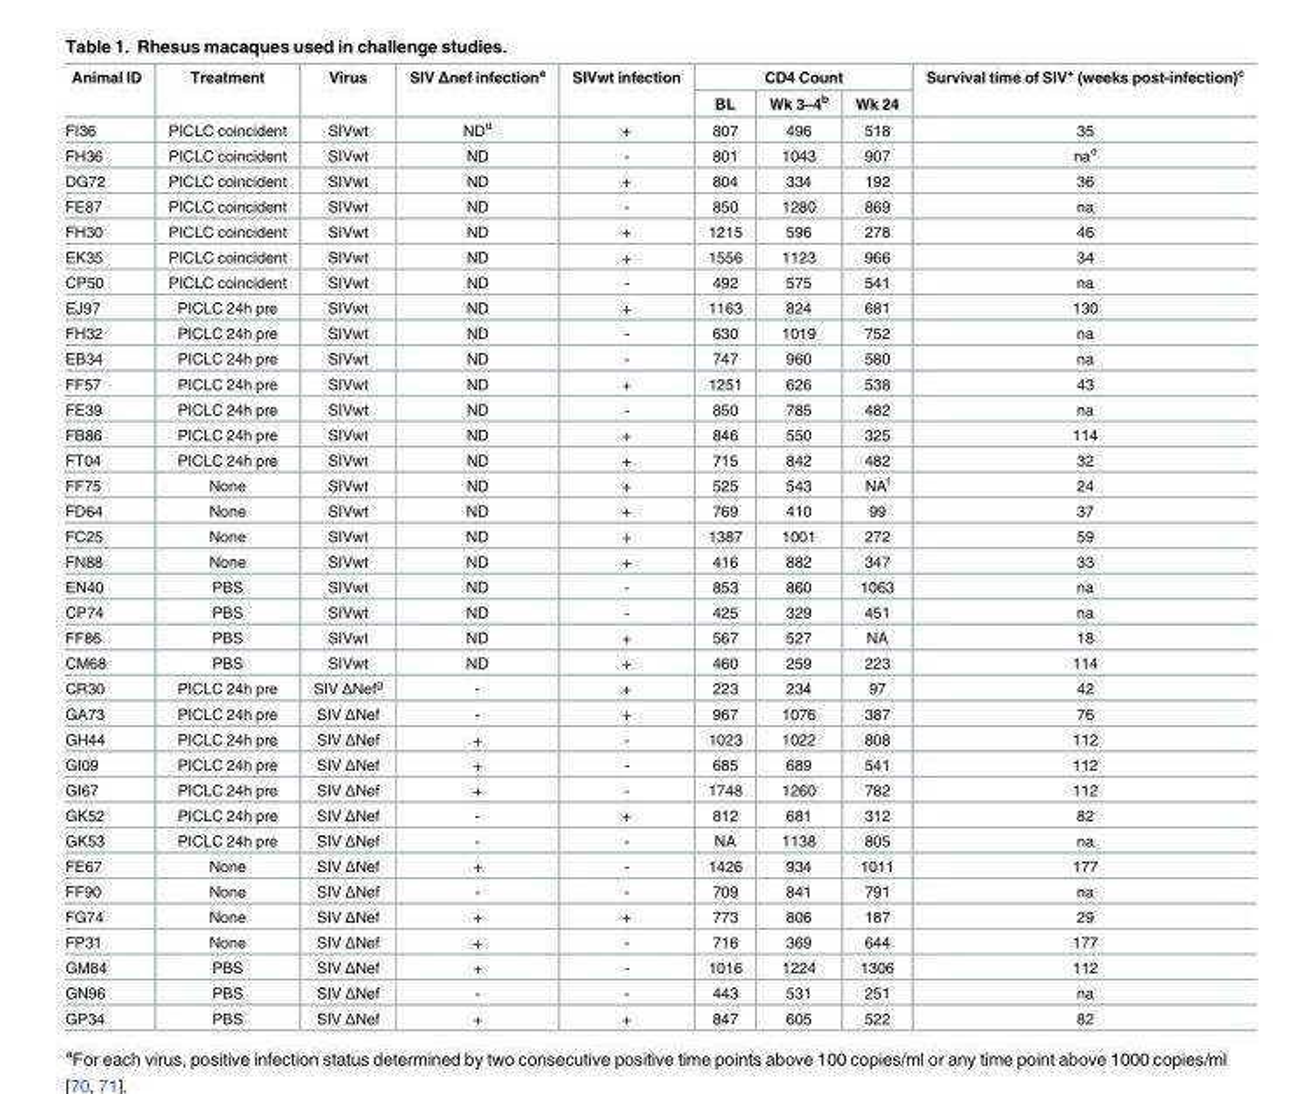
<table><thead><tr><td rowspan="2">Animal ID</td><td rowspan="2">Treatment</td><td rowspan="2">Virus</td><td rowspan="2">SIV Δnef infection<sup>a</sup></td><td rowspan="2">SIVwt infection</td><td colspan="3">CD4 Count</td><td rowspan="2">Survival time of SIV<sup>+</sup> (weeks post-infection)<sup>c</sup></td></tr><tr><td>BL</td><td>Wk 3–4<sup>b</sup></td><td>Wk 24</td></tr></thead><tbody><tr><td>FI36</td><td>PICLC coincident</td><td>SIVwt</td><td>ND<sup>d</sup></td><td>+</td><td>807</td><td>496</td><td>518</td><td>35</td></tr><tr><td>FH36</td><td>PICLC coincident</td><td>SIVwt</td><td>ND</td><td>-</td><td>801</td><td>1043</td><td>907</td><td>na<sup>e</sup></td></tr><tr><td>DG72</td><td>PICLC coincident</td><td>SIVwt</td><td>ND</td><td>+</td><td>804</td><td>334</td><td>192</td><td>36</td></tr><tr><td>FE87</td><td>PICLC coincident</td><td>SIVwt</td><td>ND</td><td>-</td><td>850</td><td>1280</td><td>869</td><td>na</td></tr><tr><td>FH30</td><td>PICLC coincident</td><td>SIVwt</td><td>ND</td><td>+</td><td>1215</td><td>596</td><td>278</td><td>46</td></tr><tr><td>EK35</td><td>PICLC coincident</td><td>SIVwt</td><td>ND</td><td>+</td><td>1556</td><td>1123</td><td>966</td><td>34</td></tr><tr><td>CP50</td><td>PICLC coincident</td><td>SIVwt</td><td>ND</td><td>-</td><td>492</td><td>575</td><td>541</td><td>na</td></tr><tr><td>EJ97</td><td>PICLC 24h pre</td><td>SIVwt</td><td>ND</td><td>+</td><td>1163</td><td>824</td><td>681</td><td>130</td></tr><tr><td>FH32</td><td>PICLC 24h pre</td><td>SIVwt</td><td>ND</td><td>-</td><td>630</td><td>1019</td><td>752</td><td>na</td></tr><tr><td>EB34</td><td>PICLC 24h pre</td><td>SIVwt</td><td>ND</td><td>-</td><td>747</td><td>960</td><td>580</td><td>na</td></tr><tr><td>FF57</td><td>PICLC 24h pre</td><td>SIVwt</td><td>ND</td><td>+</td><td>1251</td><td>626</td><td>538</td><td>43</td></tr><tr><td>FE39</td><td>PICLC 24h pre</td><td>SIVwt</td><td>ND</td><td>-</td><td>850</td><td>785</td><td>482</td><td>na</td></tr><tr><td>FB86</td><td>PICLC 24h pre</td><td>SIVwt</td><td>ND</td><td>+</td><td>846</td><td>550</td><td>325</td><td>114</td></tr><tr><td>FT04</td><td>PICLC 24h pre</td><td>SIVwt</td><td>ND</td><td>+</td><td>715</td><td>842</td><td>482</td><td>32</td></tr><tr><td>FF75</td><td>None</td><td>SIVwt</td><td>ND</td><td>+</td><td>525</td><td>543</td><td>NA<sup>f</sup></td><td>24</td></tr><tr><td>FD64</td><td>None</td><td>SIVwt</td><td>ND</td><td>+</td><td>769</td><td>410</td><td>99</td><td>37</td></tr><tr><td>FC25</td><td>None</td><td>SIVwt</td><td>ND</td><td>+</td><td>1387</td><td>1001</td><td>272</td><td>59</td></tr><tr><td>FN88</td><td>None</td><td>SIVwt</td><td>ND</td><td>+</td><td>416</td><td>882</td><td>347</td><td>33</td></tr><tr><td>EN40</td><td>PBS</td><td>SIVwt</td><td>ND</td><td>-</td><td>853</td><td>860</td><td>1063</td><td>na</td></tr><tr><td>CP74</td><td>PBS</td><td>SIVwt</td><td>ND</td><td>-</td><td>425</td><td>329</td><td>451</td><td>na</td></tr><tr><td>FF86</td><td>PBS</td><td>SIVwt</td><td>ND</td><td>+</td><td>567</td><td>527</td><td>NA</td><td>18</td></tr><tr><td>CM68</td><td>PBS</td><td>SIVwt</td><td>ND</td><td>+</td><td>460</td><td>259</td><td>223</td><td>114</td></tr><tr><td>CR30</td><td>PICLC 24h pre</td><td>SIV ΔNef<sup>g</sup></td><td>-</td><td>+</td><td>223</td><td>234</td><td>97</td><td>42</td></tr><tr><td>GA73</td><td>PICLC 24h pre</td><td>SIV ΔNef</td><td>-</td><td>+</td><td>967</td><td>1076</td><td>387</td><td>76</td></tr><tr><td>GH44</td><td>PICLC 24h pre</td><td>SIV ΔNef</td><td>+</td><td>-</td><td>1023</td><td>1022</td><td>808</td><td>112</td></tr><tr><td>GI09</td><td>PICLC 24h pre</td><td>SIV ΔNef</td><td>+</td><td>-</td><td>685</td><td>689</td><td>541</td><td>112</td></tr><tr><td>GI67</td><td>PICLC 24h pre</td><td>SIV ΔNef</td><td>+</td><td>-</td><td>1748</td><td>1260</td><td>782</td><td>112</td></tr><tr><td>GK52</td><td>PICLC 24h pre</td><td>SIV ΔNef</td><td>-</td><td>+</td><td>812</td><td>681</td><td>312</td><td>82</td></tr><tr><td>GK53</td><td>PICLC 24h pre</td><td>SIV ΔNef</td><td>-</td><td>-</td><td>NA</td><td>1138</td><td>805</td><td>na</td></tr><tr><td>FE67</td><td>None</td><td>SIV ΔNef</td><td>+</td><td>-</td><td>1426</td><td>934</td><td>1011</td><td>177</td></tr><tr><td>FF90</td><td>None</td><td>SIV ΔNef</td><td>-</td><td>-</td><td>709</td><td>841</td><td>791</td><td>na</td></tr><tr><td>FG74</td><td>None</td><td>SIV ΔNef</td><td>+</td><td>+</td><td>773</td><td>806</td><td>187</td><td>29</td></tr><tr><td>FP31</td><td>None</td><td>SIV ΔNef</td><td>+</td><td>-</td><td>716</td><td>369</td><td>644</td><td>177</td></tr><tr><td>GM84</td><td>PBS</td><td>SIV ΔNef</td><td>+</td><td>-</td><td>1016</td><td>1224</td><td>1306</td><td>112</td></tr><tr><td>GN96</td><td>PBS</td><td>SIV ΔNef</td><td>-</td><td>-</td><td>443</td><td>531</td><td>251</td><td>na</td></tr><tr><td>GP34</td><td>PBS</td><td>SIV ΔNef</td><td>+</td><td>+</td><td>847</td><td>605</td><td>522</td><td>82</td></tr></tbody></table>